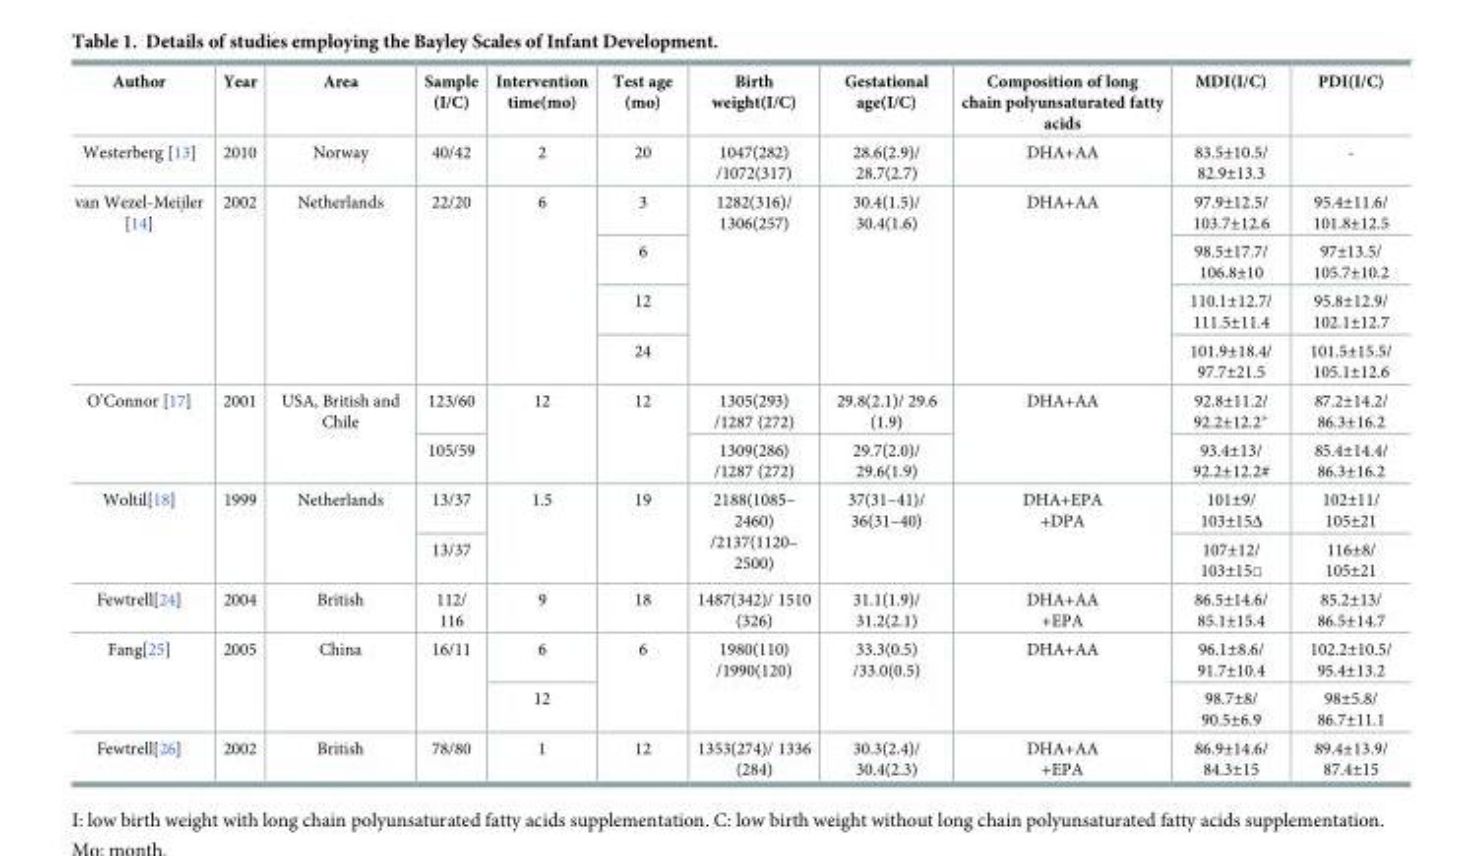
<table><thead><tr><td>Author</td><td>Year</td><td>Area</td><td>Sample (I/C)</td><td>Intervention time(mo)</td><td>Test age (mo)</td><td>Birth weight(I/C)</td><td>Gestational age(I/C)</td><td>Composition of long chain polyunsaturated fatty acids</td><td>MDI(I/C)</td><td>PDI(I/C)</td></tr></thead><tbody><tr><td>Westerberg [13]</td><td>2010</td><td>Norway</td><td>40/42</td><td>2</td><td>20</td><td>1047(282) /1072(317)</td><td>28.6(2.9)/ 28.7(2.7)</td><td>DHA+AA</td><td>83.5±10.5/ 82.9±13.3</td><td>-</td></tr><tr><td rowspan="4">van Wezel-Meijler [14]</td><td rowspan="4">2002</td><td rowspan="4">Netherlands</td><td rowspan="4">22/20</td><td rowspan="4">6</td><td>3</td><td rowspan="4">1282(316)/ 1306(257)</td><td rowspan="4">30.4(1.5)/ 30.4(1.6)</td><td rowspan="4">DHA+AA</td><td>97.9±12.5/ 103.7±12.6</td><td>95.4±11.6/ 101.8±12.5</td></tr><tr><td>6</td><td>98.5±17.7/ 106.8±10</td><td>97±13.5/ 105.7±10.2</td></tr><tr><td>12</td><td>110.1±12.7/ 111.5±11.4</td><td>95.8±12.9/ 102.1±12.7</td></tr><tr><td>24</td><td>101.9±18.4/ 97.7±21.5</td><td>101.5±15.5/ 105.1±12.6</td></tr><tr><td rowspan="2">O’Connor [17]</td><td rowspan="2">2001</td><td rowspan="2">USA, British and Chile</td><td>123/60</td><td rowspan="2">12</td><td rowspan="2">12</td><td>1305(293) /1287 (272)</td><td>29.8(2.1)/ 29.6 (1.9)</td><td rowspan="2">DHA+AA</td><td>92.8±11.2/ 92.2±12.2*</td><td>87.2±14.2/ 86.3±16.2</td></tr><tr><td>105/59</td><td>1309(286) /1287 (272)</td><td>29.7(2.0)/ 29.6(1.9)</td><td>93.4±13/ 92.2±12.2#</td><td>85.4±14.4/ 86.3±16.2</td></tr><tr><td rowspan="2">Woltil[18]</td><td rowspan="2">1999</td><td rowspan="2">Netherlands</td><td>13/37</td><td rowspan="2">1.5</td><td rowspan="2">19</td><td rowspan="2">2188(1085– 2460) /2137(1120– 2500)</td><td rowspan="2">37(31–41)/ 36(31–40)</td><td rowspan="2">DHA+EPA +DPA</td><td>101±9/ 103±15Δ</td><td>102±11/ 105±21</td></tr><tr><td>13/37</td><td>107±12/ 103±15□</td><td>116±8/ 105±21</td></tr><tr><td>Fewtrell[24]</td><td>2004</td><td>British</td><td>112/ 116</td><td>9</td><td>18</td><td>1487(342)/ 1510 (326)</td><td>31.1(1.9)/ 31.2(2.1)</td><td>DHA+AA +EPA</td><td>86.5±14.6/ 85.1±15.4</td><td>85.2±13/ 86.5±14.7</td></tr><tr><td rowspan="2">Fang[25]</td><td rowspan="2">2005</td><td rowspan="2">China</td><td rowspan="2">16/11</td><td>6</td><td rowspan="2">6</td><td rowspan="2">1980(110) /1990(120)</td><td rowspan="2">33.3(0.5) /33.0(0.5)</td><td rowspan="2">DHA+AA</td><td>96.1±8.6/ 91.7±10.4</td><td>102.2±10.5/ 95.4±13.2</td></tr><tr><td>12</td><td>98.7±8/ 90.5±6.9</td><td>98±5.8/ 86.7±11.1</td></tr><tr><td>Fewtrell[26]</td><td>2002</td><td>British</td><td>78/80</td><td>1</td><td>12</td><td>1353(274)/ 1336 (284)</td><td>30.3(2.4)/ 30.4(2.3)</td><td>DHA+AA +EPA</td><td>86.9±14.6/ 84.3±15</td><td>89.4±13.9/ 87.4±15</td></tr></tbody></table>